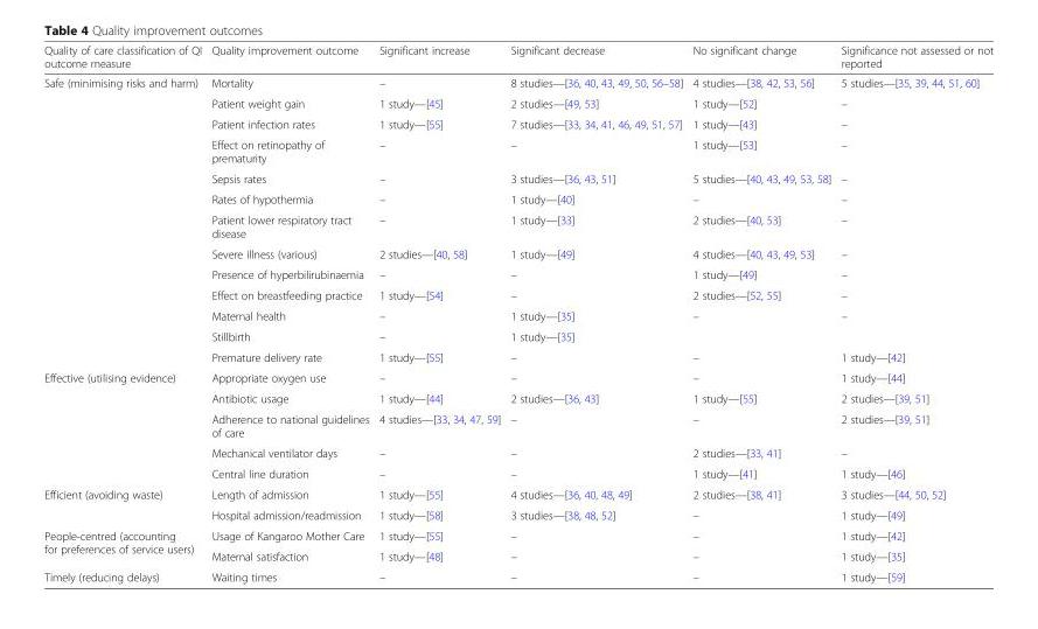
<table><thead><tr><td>Quality of care classification of QI outcome measure</td><td>Quality improvement outcome</td><td>Significant increase</td><td>Significant decrease</td><td>No significant change</td><td>Significance not assessed or not reported</td></tr></thead><tbody><tr><td rowspan="13">Safe (minimising risks and harm)</td><td>Mortality</td><td>–</td><td>8 studies—[36, 40, 43, 49, 50, 56–58]</td><td>4 studies—[38, 42, 53, 56]</td><td>5 studies—[35, 39, 44, 51, 60]</td></tr><tr><td>Patient weight gain</td><td>1 study—[45]</td><td>2 studies—[49, 53]</td><td>1 study—[52]</td><td>–</td></tr><tr><td>Patient infection rates</td><td>1 study—[55]</td><td>7 studies—[33, 34, 41, 46, 49, 51, 57]</td><td>1 study—[43]</td><td>–</td></tr><tr><td>Effect on retinopathy of prematurity</td><td>–</td><td>–</td><td>1 study—[53]</td><td>–</td></tr><tr><td>Sepsis rates</td><td>–</td><td>3 studies—[36, 43, 51]</td><td>5 studies—[40, 43, 49, 53, 58]</td><td>–</td></tr><tr><td>Rates of hypothermia</td><td>–</td><td>1 study—[40]</td><td>–</td><td>–</td></tr><tr><td>Patient lower respiratory tract disease</td><td>–</td><td>1 study—[33]</td><td>2 studies—[40, 53]</td><td>–</td></tr><tr><td>Severe illness (various)</td><td>2 studies—[40, 58]</td><td>1 study—[49]</td><td>4 studies—[40, 43, 49, 53]</td><td>–</td></tr><tr><td>Presence of hyperbilirubinaemia</td><td>–</td><td>–</td><td>1 study—[49]</td><td>–</td></tr><tr><td>Effect on breastfeeding practice</td><td>1 study—[54]</td><td>–</td><td>2 studies—[52, 55]</td><td>–</td></tr><tr><td>Maternal health</td><td>–</td><td>1 study—[35]</td><td>–</td><td>–</td></tr><tr><td>Stillbirth</td><td>–</td><td>1 study—[35]</td><td></td><td></td></tr><tr><td>Premature delivery rate</td><td>1 study—[55]</td><td>–</td><td>–</td><td>1 study—[42]</td></tr><tr><td rowspan="5">Effective (utilising evidence)</td><td>Appropriate oxygen use</td><td>–</td><td>–</td><td>–</td><td>1 study—[44]</td></tr><tr><td>Antibiotic usage</td><td>1 study—[44]</td><td>2 studies—[36, 43]</td><td>1 study—[55]</td><td>2 studies—[39, 51]</td></tr><tr><td>Adherence to national guidelines of care</td><td>4 studies—[33, 34, 47, 59]</td><td>–</td><td>–</td><td>2 studies—[39, 51]</td></tr><tr><td>Mechanical ventilator days</td><td>–</td><td>–</td><td>2 studies—[33, 41]</td><td>–</td></tr><tr><td>Central line duration</td><td>–</td><td>–</td><td>1 study—[41]</td><td>1 study—[46]</td></tr><tr><td rowspan="2">Efficient (avoiding waste)</td><td>Length of admission</td><td>1 study—[55]</td><td>4 studies—[36, 40, 48, 49]</td><td>2 studies—[38, 41]</td><td>3 studies—[44, 50, 52]</td></tr><tr><td>Hospital admission/readmission</td><td>1 study—[58]</td><td>3 studies—[38, 48, 52]</td><td>–</td><td>1 study—[49]</td></tr><tr><td rowspan="2">People-centred (accounting for preferences of service users)</td><td>Usage of Kangaroo Mother Care</td><td>1 study—[55]</td><td>–</td><td>–</td><td>1 study—[42]</td></tr><tr><td>Maternal satisfaction</td><td>1 study—[48]</td><td>–</td><td>–</td><td>1 study—[35]</td></tr><tr><td>Timely (reducing delays)</td><td>Waiting times</td><td>–</td><td>–</td><td>–</td><td>1 study—[59]</td></tr></tbody></table>